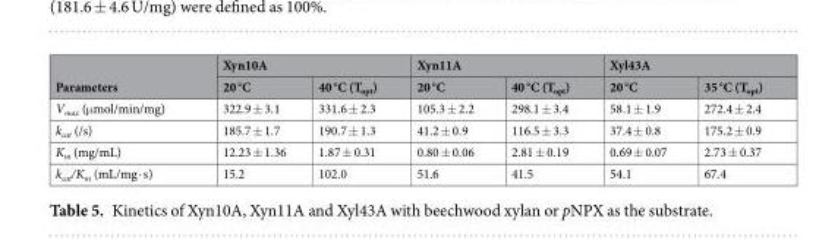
<table><thead><tr><td rowspan="2">Parameters</td><td colspan="2">Xyn10A</td><td colspan="2">Xyn11A</td><td colspan="2">Xyl43A</td></tr><tr><td>20 °C</td><td>40 °C (T<sub>opt</sub>)</td><td>20 °C</td><td>40 °C (T<sub>opt</sub>)</td><td>20 °C</td><td>35 °C (T<sub>opt</sub>)</td></tr></thead><tbody><tr><td>V<sub>max</sub> (μmol/min/mg)</td><td>322.9 ± 3.1</td><td>331.6 ± 2.3</td><td>105.3 ± 2.2</td><td>298.1 ± 3.4</td><td>58.1 ± 1.9</td><td>272.4 ± 2.4</td></tr><tr><td>k<sub>cat</sub> (/s)</td><td>185.7 ± 1.7</td><td>190.7 ± 1.3</td><td>41.2 ± 0.9</td><td>116.5 ± 3.3</td><td>37.4 ± 0.8</td><td>175.2 ± 0.9</td></tr><tr><td>K<sub>m</sub> (mg/mL)</td><td>12.23 ± 1.36</td><td>1.87 ± 0.31</td><td>0.80 ± 0.06</td><td>2.81 ± 0.19</td><td>0.69 ± 0.07</td><td>2.73 ± 0.37</td></tr><tr><td>k<sub>cat</sub>/K<sub>m</sub> (mL/mg · s)</td><td>15.2</td><td>102.0</td><td>51.6</td><td>41.5</td><td>54.1</td><td>67.4</td></tr></tbody></table>